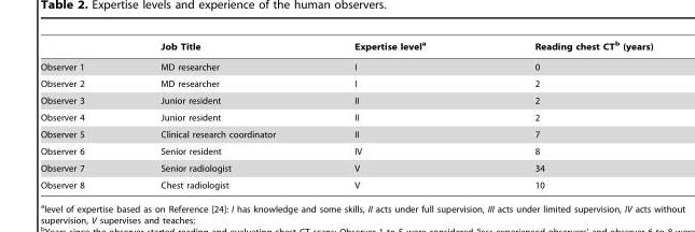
<table><thead><tr><td></td><td>Job Title</td><td>Expertise level<sup>a</sup></td><td>Reading chest CT<sup>b</sup> (years)</td></tr></thead><tbody><tr><td>Observer 1</td><td>MD researcher</td><td>I</td><td>0</td></tr><tr><td>Observer 2</td><td>MD researcher</td><td>I</td><td>2</td></tr><tr><td>Observer 3</td><td>Junior resident</td><td>II</td><td>2</td></tr><tr><td>Observer 4</td><td>Junior resident</td><td>II</td><td>2</td></tr><tr><td>Observer 5</td><td>Clinical research coordinator</td><td>II</td><td>7</td></tr><tr><td>Observer 6</td><td>Senior resident</td><td>IV</td><td>8</td></tr><tr><td>Observer 7</td><td>Senior radiologist</td><td>V</td><td>34</td></tr><tr><td>Observer 8</td><td>Chest radiologist</td><td>V</td><td>10</td></tr></tbody></table>